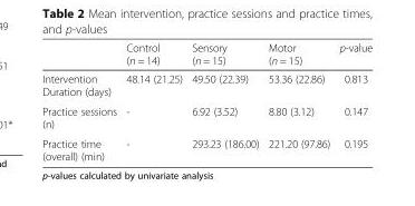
<table><thead><tr><td></td><td>Control (n = 14)</td><td>Sensory (n = 15)</td><td>Motor (n = 15)</td><td>p-value</td></tr></thead><tbody><tr><td>Intervention Duration (days)</td><td>48.14 (21.25)</td><td>49.50 (22.39)</td><td>53.36 (22.86)</td><td>0.813</td></tr><tr><td>Practice sessions (n)</td><td>-</td><td>6.92 (3.52)</td><td>8.80 (3.12)</td><td>0.147</td></tr><tr><td>Practice time (overall) (min)</td><td>-</td><td>293.23 (186.00)</td><td>221.20 (97.86)</td><td>0.195</td></tr></tbody></table>